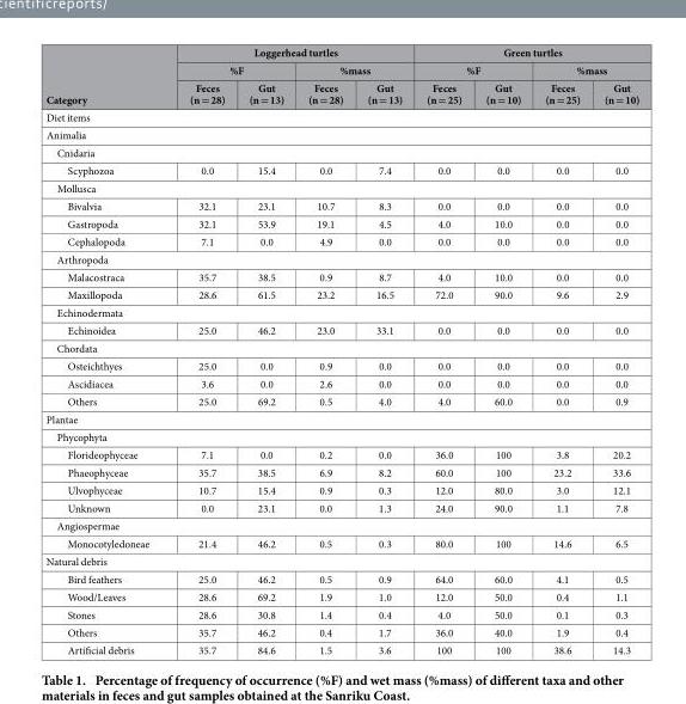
<table><thead><tr><td rowspan="3">Category</td><td colspan="4">Loggerhead turtles</td><td colspan="4">Green turtles</td></tr><tr><td colspan="2">%F</td><td colspan="2">%mass</td><td colspan="2">%F</td><td colspan="2">%mass</td></tr><tr><td>Feces (n = 28)</td><td>Gut (n = 13)</td><td>Feces (n = 28)</td><td>Gut (n = 13)</td><td>Feces (n = 25)</td><td>Gut (n = 10)</td><td>Feces (n = 25)</td><td>Gut (n = 10)</td></tr></thead><tbody><tr><td colspan="9">Diet items</td></tr><tr><td colspan="9">Animalia</td></tr><tr><td colspan="9">Cnidaria</td></tr><tr><td>Scyphozoa</td><td>0.0</td><td>15.4</td><td>0.0</td><td>7.4</td><td>0.0</td><td>0.0</td><td>0.0</td><td>0.0</td></tr><tr><td colspan="9">Mollusca</td></tr><tr><td>Bivalvia</td><td>32.1</td><td>23.1</td><td>10.7</td><td>8.3</td><td>0.0</td><td>0.0</td><td>0.0</td><td>0.0</td></tr><tr><td>Gastropoda</td><td>32.1</td><td>53.9</td><td>19.1</td><td>4.5</td><td>4.0</td><td>10.0</td><td>0.0</td><td>0.0</td></tr><tr><td>Cephalopoda</td><td>7.1</td><td>0.0</td><td>4.9</td><td>0.0</td><td>0.0</td><td>0.0</td><td>0.0</td><td>0.0</td></tr><tr><td colspan="9">Arthropoda</td></tr><tr><td>Malacostraca</td><td>35.7</td><td>38.5</td><td>0.9</td><td>8.7</td><td>4.0</td><td>10.0</td><td>0.0</td><td>0.0</td></tr><tr><td>Maxillopoda</td><td>28.6</td><td>61.5</td><td>23.2</td><td>16.5</td><td>72.0</td><td>90.0</td><td>9.6</td><td>2.9</td></tr><tr><td colspan="9">Echinodermata</td></tr><tr><td>Echinoidea</td><td>25.0</td><td>46.2</td><td>23.0</td><td>33.1</td><td>0.0</td><td>0.0</td><td>0.0</td><td>0.0</td></tr><tr><td colspan="9">Chordata</td></tr><tr><td>Osteichthyes</td><td>25.0</td><td>0.0</td><td>0.9</td><td>0.0</td><td>0.0</td><td>0.0</td><td>0.0</td><td>0.0</td></tr><tr><td>Ascidiacea</td><td>3.6</td><td>0.0</td><td>2.6</td><td>0.0</td><td>0.0</td><td>0.0</td><td>0.0</td><td>0.0</td></tr><tr><td>Others</td><td>25.0</td><td>69.2</td><td>0.5</td><td>4.0</td><td>4.0</td><td>60.0</td><td>0.0</td><td>0.9</td></tr><tr><td colspan="9">Plantae</td></tr><tr><td colspan="9">Phycophyta</td></tr><tr><td>Florideophyceae</td><td>7.1</td><td>0.0</td><td>0.2</td><td>0.0</td><td>36.0</td><td>100</td><td>3.8</td><td>20.2</td></tr><tr><td>Phaeophyceae</td><td>35.7</td><td>38.5</td><td>6.9</td><td>8.2</td><td>60.0</td><td>100</td><td>23.2</td><td>33.6</td></tr><tr><td>Ulvophyceae</td><td>10.7</td><td>15.4</td><td>0.9</td><td>0.3</td><td>12.0</td><td>80.0</td><td>3.0</td><td>12.1</td></tr><tr><td>Unknown</td><td>0.0</td><td>23.1</td><td>0.0</td><td>1.3</td><td>24.0</td><td>90.0</td><td>1.1</td><td>7.8</td></tr><tr><td colspan="9">Angiospermae</td></tr><tr><td>Monocotyledoneae</td><td>21.4</td><td>46.2</td><td>0.5</td><td>0.3</td><td>80.0</td><td>100</td><td>14.6</td><td>6.5</td></tr><tr><td colspan="9">Natural debris</td></tr><tr><td>Bird feathers</td><td>25.0</td><td>46.2</td><td>0.5</td><td>0.9</td><td>64.0</td><td>60.0</td><td>4.1</td><td>0.5</td></tr><tr><td>Wood/Leaves</td><td>28.6</td><td>69.2</td><td>1.9</td><td>1.0</td><td>12.0</td><td>50.0</td><td>0.4</td><td>1.1</td></tr><tr><td>Stones</td><td>28.6</td><td>30.8</td><td>1.4</td><td>0.4</td><td>4.0</td><td>50.0</td><td>0.1</td><td>0.3</td></tr><tr><td>Others</td><td>35.7</td><td>46.2</td><td>0.4</td><td>1.7</td><td>36.0</td><td>40.0</td><td>1.9</td><td>0.4</td></tr><tr><td>Artificial debris</td><td>35.7</td><td>84.6</td><td>1.5</td><td>3.6</td><td>100</td><td>100</td><td>38.6</td><td>14.3</td></tr></tbody></table>